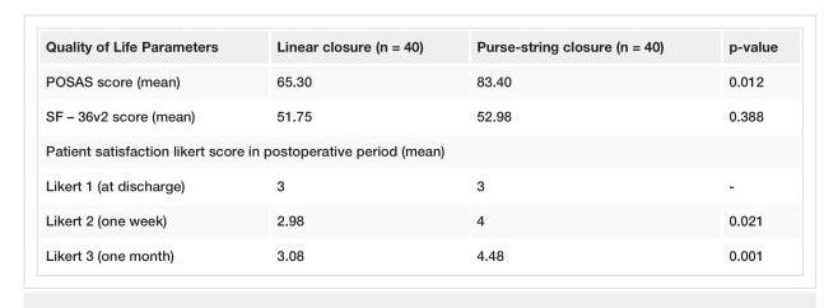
<table><tbody><tr><td>Quality of Life Parameters</td><td>Linear closure (n = 40)</td><td>Purse-string closure (n = 40)</td><td>p-value</td></tr><tr><td>POSAS score (mean)</td><td>65.30</td><td>83.40</td><td>0.012</td></tr><tr><td>SF – 36v2 score (mean)</td><td>51.75</td><td>52.98</td><td>0.388</td></tr><tr><td colspan="4">Patient satisfaction likert score in postoperative period (mean)</td></tr><tr><td>Likert 1 (at discharge)</td><td>3</td><td>3</td><td>-</td></tr><tr><td>Likert 2 (one week)</td><td>2.98</td><td>4</td><td>0.021</td></tr><tr><td>Likert 3 (one month)</td><td>3.08</td><td>4.48</td><td>0.001</td></tr></tbody></table>